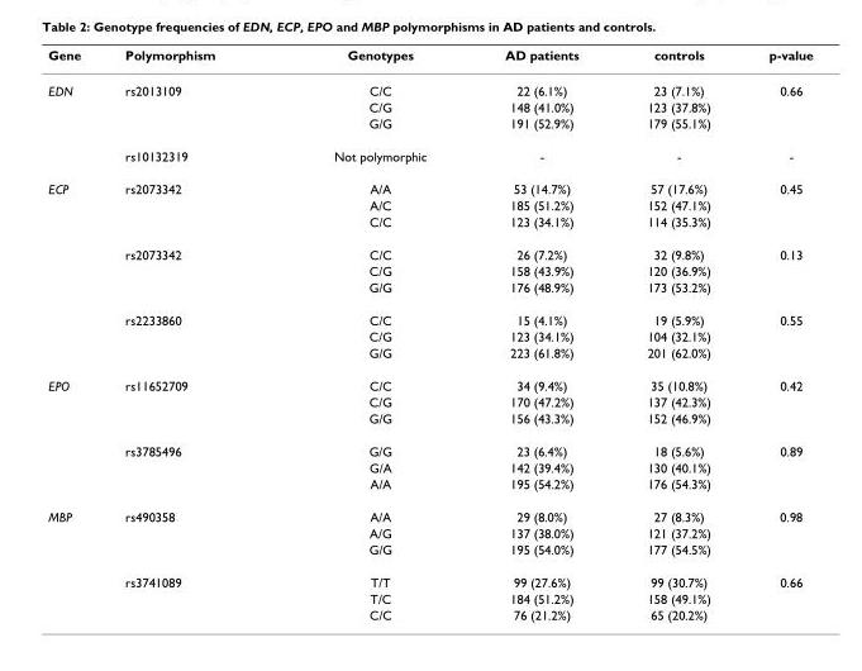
<table><thead><tr><td>Gene</td><td>Polymorphism</td><td>Genotypes</td><td>AD patients</td><td>controls</td><td>p-value</td></tr></thead><tbody><tr><td rowspan="4">EDN</td><td>rs2013109</td><td>C/C</td><td>22 (6.1%)</td><td>23 (7.1%)</td><td>0.66</td></tr><tr><td></td><td>C/G</td><td>148 (41.0%)</td><td>123 (37.8%)</td><td></td></tr><tr><td></td><td>G/G</td><td>191 (52.9%)</td><td>179 (55.1%)</td><td></td></tr><tr><td>rs10132319</td><td>Not polymorphic</td><td>-</td><td>-</td><td>-</td></tr><tr><td rowspan="9">ECP</td><td>rs2073342</td><td>A/A</td><td>53 (14.7%)</td><td>57 (17.6%)</td><td>0.45</td></tr><tr><td></td><td>A/C</td><td>185 (51.2%)</td><td>152 (47.1%)</td><td></td></tr><tr><td></td><td>C/C</td><td>123 (34.1%)</td><td>114 (35.3%)</td><td></td></tr><tr><td>rs2073342</td><td>C/C</td><td>26 (7.2%)</td><td>32 (9.8%)</td><td>0.13</td></tr><tr><td></td><td>C/G</td><td>158 (43.9%)</td><td>120 (36.9%)</td><td></td></tr><tr><td></td><td>G/G</td><td>176 (48.9%)</td><td>173 (53.2%)</td><td></td></tr><tr><td>rs2233860</td><td>C/C</td><td>15 (4.1%)</td><td>19 (5.9%)</td><td>0.55</td></tr><tr><td></td><td>C/G</td><td>123 (34.1%)</td><td>104 (32.1%)</td><td></td></tr><tr><td></td><td>G/G</td><td>223 (61.8%)</td><td>201 (62.0%)</td><td></td></tr><tr><td rowspan="6">EPO</td><td>rs11652709</td><td>C/C</td><td>34 (9.4%)</td><td>35 (10.8%)</td><td>0.42</td></tr><tr><td></td><td>C/G</td><td>170 (47.2%)</td><td>137 (42.3%)</td><td></td></tr><tr><td></td><td>G/G</td><td>156 (43.3%)</td><td>152 (46.9%)</td><td></td></tr><tr><td>rs3785496</td><td>G/G</td><td>23 (6.4%)</td><td>18 (5.6%)</td><td>0.89</td></tr><tr><td></td><td>G/A</td><td>142 (39.4%)</td><td>130 (40.1%)</td><td></td></tr><tr><td></td><td>A/A</td><td>195 (54.2%)</td><td>176 (54.3%)</td><td></td></tr><tr><td rowspan="6">MBP</td><td>rs490358</td><td>A/A</td><td>29 (8.0%)</td><td>27 (8.3%)</td><td>0.98</td></tr><tr><td></td><td>A/G</td><td>137 (38.0%)</td><td>121 (37.2%)</td><td></td></tr><tr><td></td><td>G/G</td><td>195 (54.0%)</td><td>177 (54.5%)</td><td></td></tr><tr><td>rs3741089</td><td>T/T</td><td>99 (27.6%)</td><td>99 (30.7%)</td><td>0.66</td></tr><tr><td></td><td>T/C</td><td>184 (51.2%)</td><td>158 (49.1%)</td><td></td></tr><tr><td></td><td>C/C</td><td>76 (21.2%)</td><td>65 (20.2%)</td><td></td></tr></tbody></table>